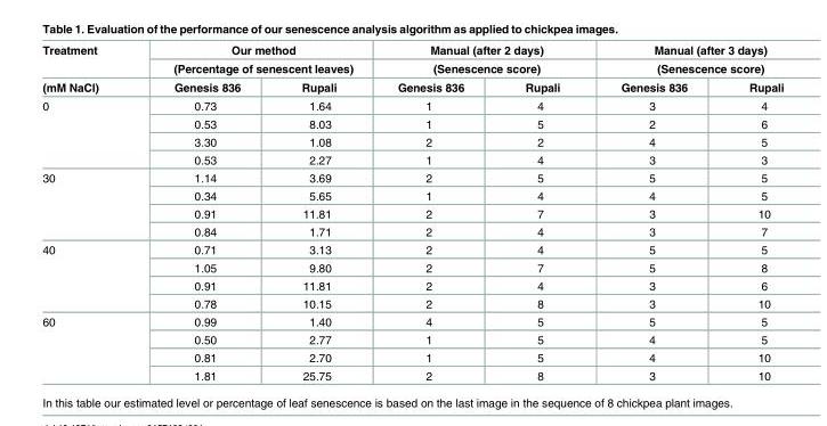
<table><thead><tr><td rowspan="3">Treatment (mM NaCl)</td><td rowspan="2" colspan="2">Our method (Percentage of senescent leaves)</td><td rowspan="2" colspan="2">Manual (after 2 days) (Senescence score)</td><td rowspan="2" colspan="2">Manual (after 3 days) (Senescence score)</td></tr><tr></tr><tr><td>Genesis 836</td><td>Rupali</td><td>Genesis 836</td><td>Rupali</td><td>Genesis 836</td><td>Rupali</td></tr></thead><tbody><tr><td rowspan="4">0</td><td>0.73</td><td>1.64</td><td>1</td><td>4</td><td>3</td><td>4</td></tr><tr><td>0.53</td><td>8.03</td><td>1</td><td>5</td><td>2</td><td>6</td></tr><tr><td>3.30</td><td>1.08</td><td>2</td><td>2</td><td>4</td><td>5</td></tr><tr><td>0.53</td><td>2.27</td><td>1</td><td>4</td><td>3</td><td>3</td></tr><tr><td rowspan="4">30</td><td>1.14</td><td>3.69</td><td>2</td><td>5</td><td>5</td><td>5</td></tr><tr><td>0.34</td><td>5.65</td><td>1</td><td>4</td><td>4</td><td>5</td></tr><tr><td>0.91</td><td>11.81</td><td>2</td><td>7</td><td>3</td><td>10</td></tr><tr><td>0.84</td><td>1.71</td><td>2</td><td>4</td><td>3</td><td>7</td></tr><tr><td rowspan="4">40</td><td>0.71</td><td>3.13</td><td>2</td><td>4</td><td>5</td><td>5</td></tr><tr><td>1.05</td><td>9.80</td><td>2</td><td>7</td><td>5</td><td>8</td></tr><tr><td>0.91</td><td>11.81</td><td>2</td><td>4</td><td>3</td><td>6</td></tr><tr><td>0.78</td><td>10.15</td><td>2</td><td>8</td><td>3</td><td>10</td></tr><tr><td rowspan="4">60</td><td>0.99</td><td>1.40</td><td>4</td><td>5</td><td>5</td><td>5</td></tr><tr><td>0.50</td><td>2.77</td><td>1</td><td>5</td><td>4</td><td>5</td></tr><tr><td>0.81</td><td>2.70</td><td>1</td><td>5</td><td>4</td><td>10</td></tr><tr><td>1.81</td><td>25.75</td><td>2</td><td>8</td><td>3</td><td>10</td></tr></tbody></table>